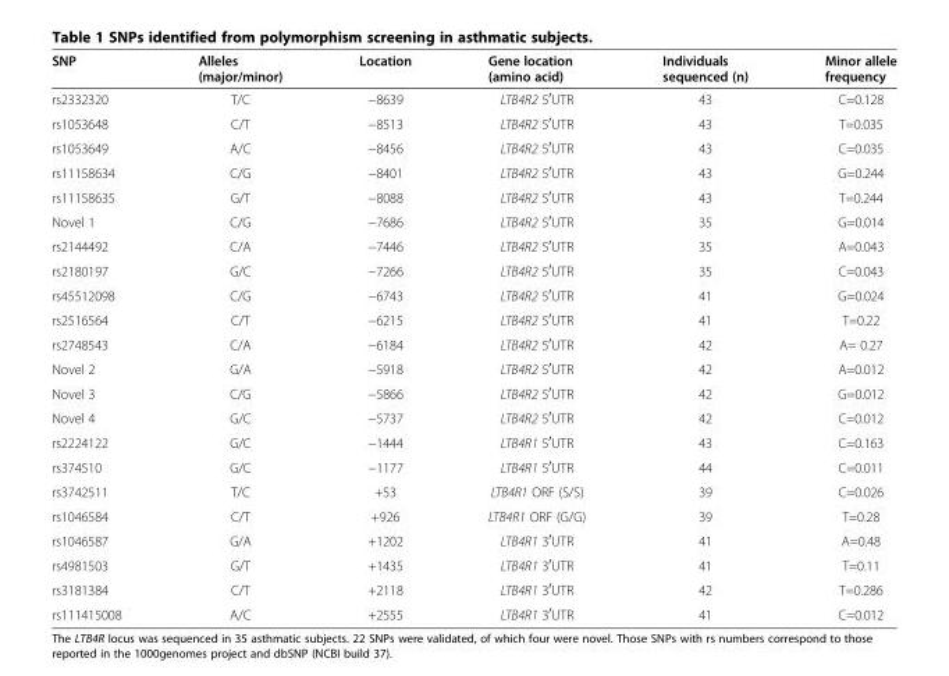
<table><thead><tr><td>SNP</td><td>Alleles (major/minor)</td><td>Location</td><td>Gene location (amino acid)</td><td>Individuals sequenced (n)</td><td>Minor allele frequency</td></tr></thead><tbody><tr><td>rs2332320</td><td>T/C</td><td>−8639</td><td>LTB4R2 5′UTR</td><td>43</td><td>C=0.128</td></tr><tr><td>rs1053648</td><td>C/T</td><td>−8513</td><td>LTB4R2 5′UTR</td><td>43</td><td>T=0.035</td></tr><tr><td>rs1053649</td><td>A/C</td><td>−8456</td><td>LTB4R2 5′UTR</td><td>43</td><td>C=0.035</td></tr><tr><td>rs11158634</td><td>C/G</td><td>−8401</td><td>LTB4R2 5′UTR</td><td>43</td><td>G=0.244</td></tr><tr><td>rs11158635</td><td>G/T</td><td>−8088</td><td>LTB4R2 5′UTR</td><td>43</td><td>T=0.244</td></tr><tr><td>Novel 1</td><td>C/G</td><td>−7686</td><td>LTB4R2 5′UTR</td><td>35</td><td>G=0.014</td></tr><tr><td>rs2144492</td><td>C/A</td><td>−7446</td><td>LTB4R2 5′UTR</td><td>35</td><td>A=0.043</td></tr><tr><td>rs2180197</td><td>G/C</td><td>−7266</td><td>LTB4R2 5′UTR</td><td>35</td><td>C=0.043</td></tr><tr><td>rs45512098</td><td>C/G</td><td>−6743</td><td>LTB4R2 5′UTR</td><td>41</td><td>G=0.024</td></tr><tr><td>rs2516564</td><td>C/T</td><td>−6215</td><td>LTB4R2 5′UTR</td><td>41</td><td>T=0.22</td></tr><tr><td>rs2748543</td><td>C/A</td><td>−6184</td><td>LTB4R2 5′UTR</td><td>42</td><td>A= 0.27</td></tr><tr><td>Novel 2</td><td>G/A</td><td>−5918</td><td>LTB4R2 5′UTR</td><td>42</td><td>A=0.012</td></tr><tr><td>Novel 3</td><td>C/G</td><td>−5866</td><td>LTB4R2 5′UTR</td><td>42</td><td>G=0.012</td></tr><tr><td>Novel 4</td><td>G/C</td><td>−5737</td><td>LTB4R2 5′UTR</td><td>42</td><td>C=0.012</td></tr><tr><td>rs2224122</td><td>G/C</td><td>−1444</td><td>LTB4R1 5′UTR</td><td>43</td><td>C=0.163</td></tr><tr><td>rs374510</td><td>G/C</td><td>−1177</td><td>LTB4R1 5′UTR</td><td>44</td><td>C=0.011</td></tr><tr><td>rs3742511</td><td>T/C</td><td>+53</td><td>LTB4R1 ORF (S/S)</td><td>39</td><td>C=0.026</td></tr><tr><td>rs1046584</td><td>C/T</td><td>+926</td><td>LTB4R1 ORF (G/G)</td><td>39</td><td>T=0.28</td></tr><tr><td>rs1046587</td><td>G/A</td><td>+1202</td><td>LTB4R1 3′UTR</td><td>41</td><td>A=0.48</td></tr><tr><td>rs4981503</td><td>G/T</td><td>+1435</td><td>LTB4R1 3′UTR</td><td>41</td><td>T=0.11</td></tr><tr><td>rs3181384</td><td>C/T</td><td>+2118</td><td>LTB4R1 3′UTR</td><td>42</td><td>T=0.286</td></tr><tr><td>rs111415008</td><td>A/C</td><td>+2555</td><td>LTB4R1 3′UTR</td><td>41</td><td>C=0.012</td></tr></tbody></table>